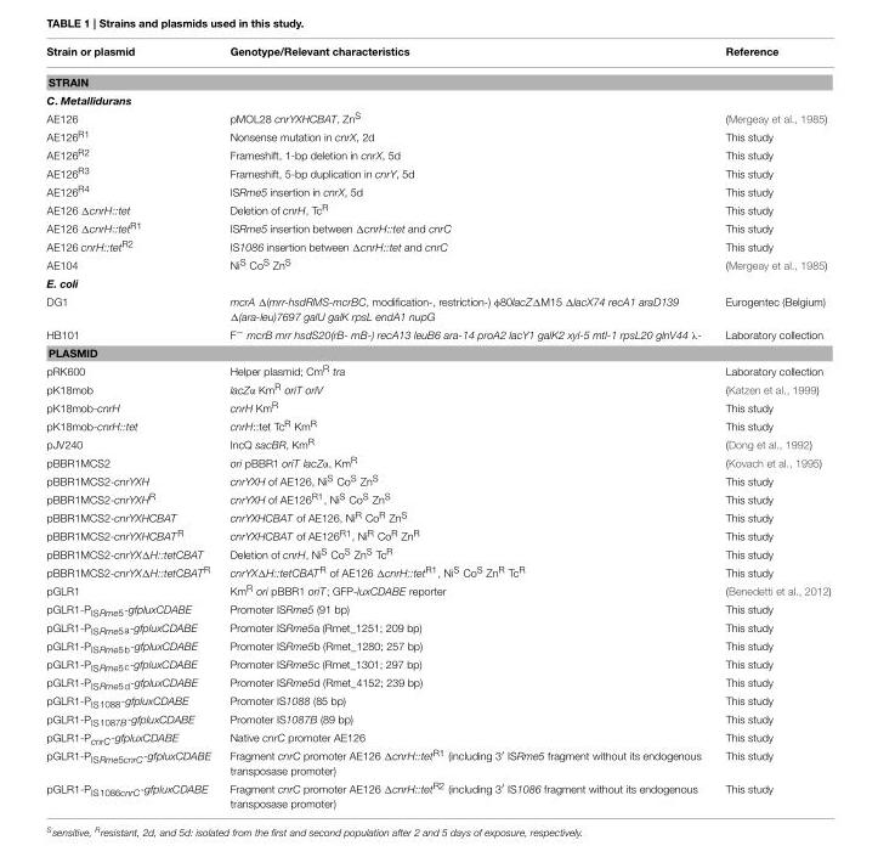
<table><thead><tr><td>Strain or plasmid</td><td>Genotype/Relevant characteristics</td><td>Reference</td></tr></thead><tbody><tr><td colspan="3">STRAIN</td></tr><tr><td colspan="3">C. Metallidurans</td></tr><tr><td>AE126</td><td>pMOL28 cnrYXHCBAT, Zn<sup>S</sup></td><td>(Mergeay et al., 1985)</td></tr><tr><td>AE126<sup>R1</sup></td><td>Nonsense mutation in cnrX, 2d</td><td>This study</td></tr><tr><td>AE126<sup>R2</sup></td><td>Frameshift, 1-bp deletion in cnrX, 5d</td><td>This study</td></tr><tr><td>AE126<sup>R3</sup></td><td>Frameshift, 5-bp duplication in cnrY, 5d</td><td>This study</td></tr><tr><td>AE126<sup>R4</sup></td><td>ISRme5 insertion in cnrX, 5d</td><td>This study</td></tr><tr><td>AE126 ΔcnrH::tet</td><td>Deletion of cnrH, Tc<sup>R</sup></td><td>This study</td></tr><tr><td>AE126 ΔcnrH::tet<sup>R1</sup></td><td>ISRme5 insertion between ΔcnrH::tet and cnrC</td><td>This study</td></tr><tr><td>AE126 cnrH::tet<sup>R2</sup></td><td>IS1086 insertion between ΔcnrH::tet and cnrC</td><td>This study</td></tr><tr><td>AE104</td><td>Ni<sup>S</sup> Co<sup>S</sup> Zn<sup>S</sup></td><td>(Mergeay et al., 1985)</td></tr><tr><td colspan="3">E. coli</td></tr><tr><td>DG1</td><td>mcrA Δ(mrr-hsdRMS-mcrBC, modification-, restriction-) φ80lacZΔM15 ΔlacX74 recA1 araD139 Δ(ara-leu)7697 galU galK rpsL endA1 nupG</td><td>Eurogentec (Belgium)</td></tr><tr><td>HB101</td><td>F<sup>−</sup> mcrB mrr hsdS20(rB- mB-) recA13 leuB6 ara-14 proA2 lacY1 galK2 xyl-5 mtl-1 rpsL20 glnV44 λ-</td><td>Laboratory collection</td></tr><tr><td colspan="3">PLASMID</td></tr><tr><td>pRK600</td><td>Helper plasmid; Cm<sup>R</sup> tra</td><td>Laboratory collection</td></tr><tr><td>pK18mob</td><td>lacZα Km<sup>R</sup> oriT oriV</td><td>(Katzen et al., 1999)</td></tr><tr><td>pK18mob-cnrH</td><td>cnrH Km<sup>R</sup></td><td>This study</td></tr><tr><td>pK18mob-cnrH::tet</td><td>cnrH::tet Tc<sup>R</sup> Km<sup>R</sup></td><td>This study</td></tr><tr><td>pJV240</td><td>IncQ sacBR, Km<sup>R</sup></td><td>(Dong et al., 1992)</td></tr><tr><td>pBBR1MCS2</td><td>ori pBBR1 oriT lacZα, Km<sup>R</sup></td><td>(Kovach et al., 1995)</td></tr><tr><td>pBBR1MCS2-cnrYXH</td><td>cnrYXH of AE126, Ni<sup>S</sup> Co<sup>S</sup> Zn<sup>S</sup></td><td>This study</td></tr><tr><td>pBBR1MCS2-cnrYXH<sup>R</sup></td><td>cnrYXH of AE126<sup>R1</sup>, Ni<sup>S</sup> Co<sup>S</sup> Zn<sup>S</sup></td><td>This study</td></tr><tr><td>pBBR1MCS2-cnrYXHCBAT</td><td>cnrYXHCBAT of AE126, Ni<sup>R</sup> Co<sup>R</sup> Zn<sup>S</sup></td><td>This study</td></tr><tr><td>pBBR1MCS2-cnrYXHCBAT<sup>R</sup></td><td>cnrYXHCBAT of AE126<sup>R1</sup>, Ni<sup>R</sup> Co<sup>R</sup> Zn<sup>R</sup></td><td>This study</td></tr><tr><td>pBBR1MCS2-cnrYXΔH::tetCBAT</td><td>Deletion of cnrH, Ni<sup>S</sup> Co<sup>S</sup> Zn<sup>S</sup> Tc<sup>R</sup></td><td>This study</td></tr><tr><td>pBBR1MCS2-cnrYXΔH::tetCBAT<sup>R</sup></td><td>cnrYXΔH::tetCBAT<sup>R</sup> of AE126 ΔcnrH::tet<sup>R1</sup>, Ni<sup>S</sup> Co<sup>S</sup> Zn<sup>R</sup> Tc<sup>R</sup></td><td>This study</td></tr><tr><td>pGLR1</td><td>Km<sup>R</sup> ori pBBR1 oriT; GFP-luxCDABE reporter</td><td>(Benedetti et al., 2012)</td></tr><tr><td>pGLR1-PISRme5-gfpluxCDABE</td><td>Promoter ISRme5 (91 bp)</td><td>This study</td></tr><tr><td>pGLR1-PISRme5a-gfpluxCDABE</td><td>Promoter ISRme5a (Rmet_1251; 209 bp)</td><td>This study</td></tr><tr><td>pGLR1-PISRme5b-gfpluxCDABE</td><td>Promoter ISRme5b (Rmet_1280; 257 bp)</td><td>This study</td></tr><tr><td>pGLR1-PISRme5c-gfpluxCDABE</td><td>Promoter ISRme5c (Rmet_1301; 297 bp)</td><td>This study</td></tr><tr><td>pGLR1-PISRme5d-gfpluxCDABE</td><td>Promoter ISRme5d (Rmet_4152; 239 bp)</td><td>This study</td></tr><tr><td>pGLR1-P<sub>IS1088</sub>-gfpluxCDABE</td><td>Promoter IS1088 (85 bp)</td><td>This study</td></tr><tr><td>pGLR1-PIS1087B-gfpluxCDABE</td><td>Promoter IS1087B (89 bp)</td><td>This study</td></tr><tr><td>pGLR1-PcnrC-gfpluxCDABE</td><td>Native cnrC promoter AE126</td><td>This study</td></tr><tr><td>pGLR1-PISRme5cnrC-gfpluxCDABE</td><td>Fragment cnrC promoter AE126 ΔcnrH::tet<sup>R1</sup> (including 3′ ISRme5 fragment without its endogenous transposase promoter)</td><td>This study</td></tr><tr><td>pGLR1-PIS1086cnrC-gfpluxCDABE</td><td>Fragment cnrC promoter AE126 ΔcnrH::tet<sup>R2</sup> (including 3′ IS1086 fragment without its endogenous transposase promoter)</td><td>This study</td></tr></tbody></table>